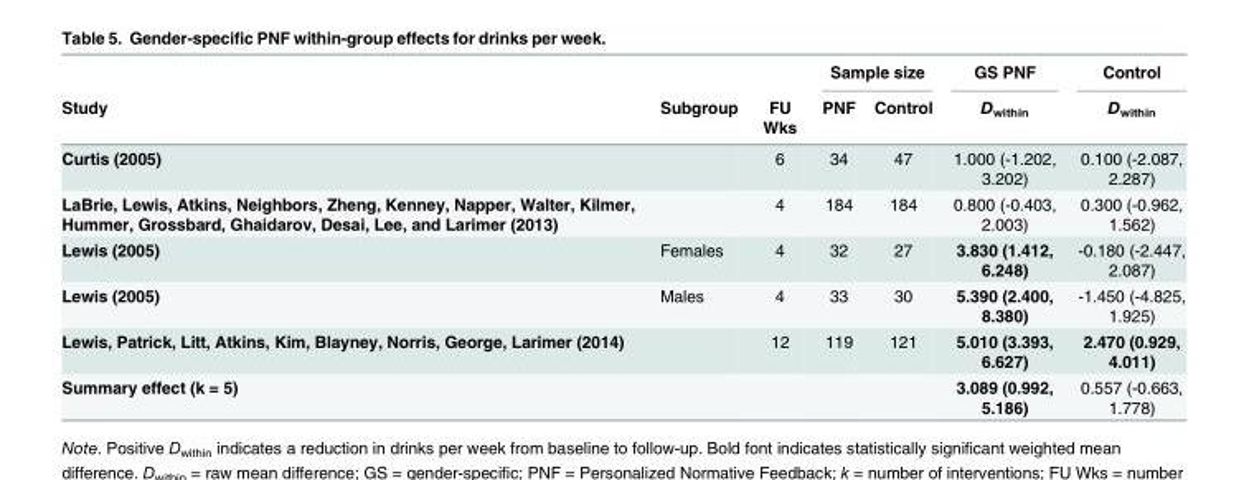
<table><thead><tr><td rowspan="2">Study</td><td rowspan="2">Subgroup</td><td rowspan="2">FU Wks</td><td colspan="2">Sample size</td><td rowspan="2">GS PNF D<sub>within</sub></td><td rowspan="2">Control D<sub>within</sub></td></tr><tr><td>PNF</td><td>Control</td></tr></thead><tbody><tr><td>Curtis (2005)</td><td></td><td>6</td><td>34</td><td>47</td><td>1.000 (-1.202, 3.202)</td><td>0.100 (-2.087, 2.287)</td></tr><tr><td>LaBrie, Lewis, Atkins, Neighbors, Zheng, Kenney, Napper, Walter, Kilmer, Hummer, Grossbard, Ghaidarov, Desai, Lee, and Larimer (2013)</td><td></td><td>4</td><td>184</td><td>184</td><td>0.800 (-0.403, 2.003)</td><td>0.300 (-0.962, 1.562)</td></tr><tr><td>Lewis (2005)</td><td>Females</td><td>4</td><td>32</td><td>27</td><td>3.830 (1.412, 6.248)</td><td>-0.180 (-2.447, 2.087)</td></tr><tr><td>Lewis (2005)</td><td>Males</td><td>4</td><td>33</td><td>30</td><td>5.390 (2.400, 8.380)</td><td>-1.450 (-4.825, 1.925)</td></tr><tr><td>Lewis, Patrick, Litt, Atkins, Kim, Blayney, Norris, George, Larimer (2014)</td><td></td><td>12</td><td>119</td><td>121</td><td>5.010 (3.393, 6.627)</td><td>2.470 (0.929, 4.011)</td></tr><tr><td>Summary effect (k = 5)</td><td></td><td></td><td></td><td></td><td>3.089 (0.992, 5.186)</td><td>0.557 (-0.663, 1.778)</td></tr></tbody></table>